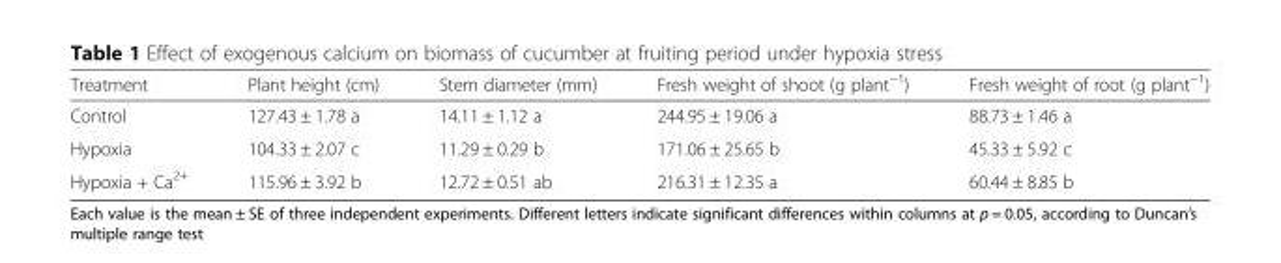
<table><thead><tr><td>Treatment</td><td>Plant height (cm)</td><td>Stem diameter (mm)</td><td>Fresh weight of shoot (g plant<sup>−1</sup>)</td><td>Fresh weight of root (g plant<sup>−1</sup>)</td></tr></thead><tbody><tr><td>Control</td><td>127.43 ± 1.78 a</td><td>14.11 ± 1.12 a</td><td>244.95 ± 19.06 a</td><td>88.73 ± 1.46 a</td></tr><tr><td>Hypoxia</td><td>104.33 ± 2.07 c</td><td>11.29 ± 0.29 b</td><td>171.06 ± 25.65 b</td><td>45.33 ± 5.92 c</td></tr><tr><td>Hypoxia + Ca<sup>2+</sup></td><td>115.96 ± 3.92 b</td><td>12.72 ± 0.51 ab</td><td>216.31 ± 12.35 a</td><td>60.44 ± 8.85 b</td></tr></tbody></table>